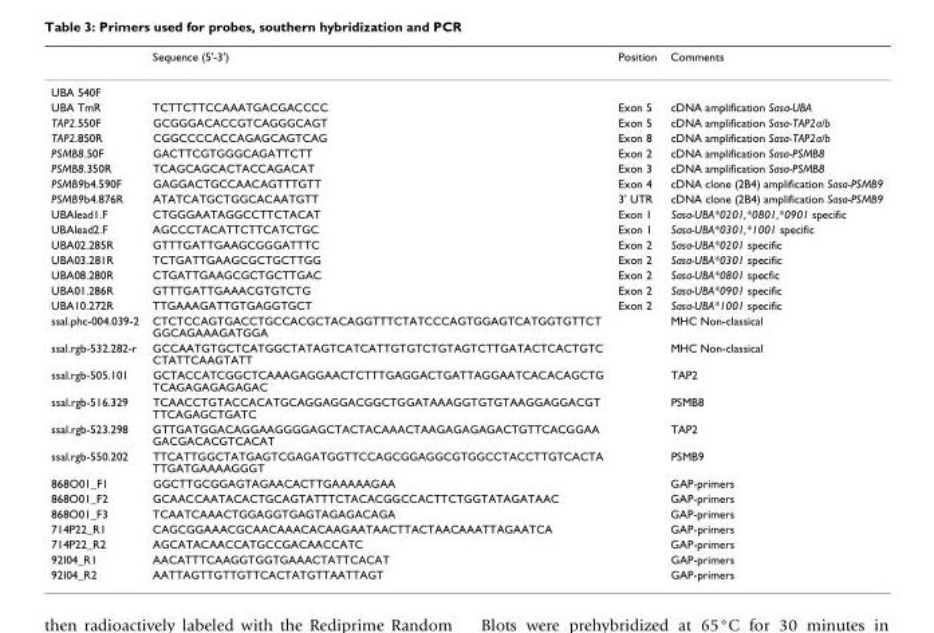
<table><thead><tr><td></td><td>Sequence (5&#x27;-3&#x27;)</td><td>Position</td><td>Comments</td></tr></thead><tbody><tr><td colspan="4">UBA 540F</td></tr><tr><td>UBA TmR</td><td>TCTTCTTCCAAATGACGACCCC</td><td>Exon 5</td><td>cDNA amplification Sasa-UBA</td></tr><tr><td>TAP2.550F</td><td>GCGGGACACCGTCAGGGCAGT</td><td>Exon 5</td><td>cDNA amplification Sasa-TAP2a/b</td></tr><tr><td>TAP2.850R</td><td>CGGCCCCACCAGAGCAGTCAG</td><td>Exon 8</td><td>cDNA amplification Sasa-TAP2a/b</td></tr><tr><td>PSMB8.50F</td><td>GACTTCGTGGGCAGATTCTT</td><td>Exon 2</td><td>cDNA amplification Sasa-PSMB8</td></tr><tr><td>PSMB8.350R</td><td>TCAGCAGCACTACCAGACAT</td><td>Exon 3</td><td>cDNA amplification Sasa-PSMB8</td></tr><tr><td>PSMB9b4.590F</td><td>GAGGACTGCCAACAGTTTGTT</td><td>Exon 4</td><td>cDNA clone (2B4) amplification Sasa-PSMB9</td></tr><tr><td>PSMB9b4.876R</td><td>ATATCATGCTGGCACAATGTT</td><td>3&#x27; UTR</td><td>cDNA clone (2B4) amplification Sasa-PSMB9</td></tr><tr><td>UBAlead1.F</td><td>CTGGGAATAGGCCTTCTACAT</td><td>Exon 1</td><td>Sasa-UBA*0201,*0801,*0901 specific</td></tr><tr><td>UBAlead2.F</td><td>AGCCCTACATTCTTCATCTGC</td><td>Exon 1</td><td>Sasa-UBA*0301,*1001 specific</td></tr><tr><td>UBA02.285R</td><td>GTTTGATTGAAGCGGGATTTC</td><td>Exon 2</td><td>Sasa-UBA*0201 specific</td></tr><tr><td>UBA03.281R</td><td>TCTGATTGAAGCGCTGCTTGG</td><td>Exon 2</td><td>Sasa-UBA*0301 specific</td></tr><tr><td>UBA08.280R</td><td>CTGATTGAAGCGCTGCTTGAC</td><td>Exon 2</td><td>Sasa-UBA*0801 specfic</td></tr><tr><td>UBA01.286R</td><td>GTTTGATTGAAACGTGTCTG</td><td>Exon 2</td><td>Sasa-UBA*0901 specific</td></tr><tr><td>UBA10.272R</td><td>TTGAAAGATTGTGAGGTGCT</td><td>Exon 2</td><td>Sasa-UBA*1001 specific</td></tr><tr><td>ssal.phc-004.039-2</td><td>CTCTCCAGTGACCTGCCACGCTACAGGTTTCTATCCCAGTGGAGTCATGGTGTTCT GGCAGAAAGATGGA</td><td></td><td>MHC Non-classical</td></tr><tr><td>ssal.rgb-532.282-r</td><td>GCCAATGTGCTCATGGCTATAGTCATCATTGTGTCTGTAGTCTTGATACTCACTGTC CTATTCAAGTATT</td><td></td><td>MHC Non-classical</td></tr><tr><td>ssal.rgb-505.101</td><td>GCTACCATCGGCTCAAAGAGGAACTCTTTGAGGACTGATTAGGAATCACACAGCTG TCAGAGAGAGAGAC</td><td></td><td>TAP2</td></tr><tr><td>ssal.rgb-516.329</td><td>TCAACCTGTACCACATGCAGGAGGACGGCTGGATAAAGGTGTGTAAGGAGGACGT TTCAGAGCTGATC</td><td></td><td>PSMB8</td></tr><tr><td>ssal.rgb-523.298</td><td>GTTGATGGACAGGAAGGGGAGCTACTACAAACTAAGAGAGAGACTGTTCACGGAA GACGACACGTCACAT</td><td></td><td>TAP2</td></tr><tr><td>ssal.rgb-550.202</td><td>TTCATTGGCTATGAGTCGAGATGGTTCCAGCGGAGGCGTGGCCTACCTTGTCACTA TTGATGAAAAGGGT</td><td></td><td>PSMB9</td></tr><tr><td>868O01_F1</td><td>GGCTTGCGGAGTAGAACACTTGAAAAAGAA</td><td></td><td>GAP-primers</td></tr><tr><td>868O01_F2</td><td>GCAACCAATACACTGCAGTATTTCTACACGGCCACTTCTGGTATAGATAAC</td><td></td><td>GAP-primers</td></tr><tr><td>868O01_F3</td><td>TCAATCAAACTGGAGGTGAGTAGAGACAGA</td><td></td><td>GAP-primers</td></tr><tr><td>714P22_R1</td><td>CAGCGGAAACGCAACAAACACAAGAATAACTTACTAACAAATTAGAATCA</td><td></td><td>GAP-primers</td></tr><tr><td>714P22_R2</td><td>AGCATACAACCATGCCGACAACCATC</td><td></td><td>GAP-primers</td></tr><tr><td>92I04_R1</td><td>AACATTTCAAGGTGGTGAAACTATTCACAT</td><td></td><td>GAP-primers</td></tr><tr><td>92I04_R2</td><td>AATTAGTTGTTGTTCACTATGTTAATTAGT</td><td></td><td>GAP-primers</td></tr></tbody></table>